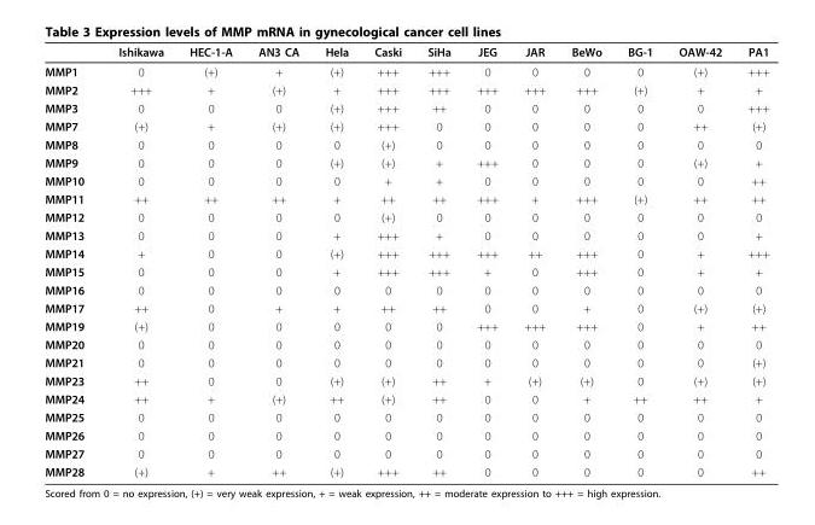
<table><thead><tr><td></td><td>Ishikawa</td><td>HEC-1-A</td><td>AN3 CA</td><td>Hela</td><td>Caski</td><td>SiHa</td><td>JEG</td><td>JAR</td><td>BeWo</td><td>BG-1</td><td>OAW-42</td><td>PA1</td></tr></thead><tbody><tr><td>MMP1</td><td>0</td><td>(+)</td><td>+</td><td>(+)</td><td>+++</td><td>+++</td><td>0</td><td>0</td><td>0</td><td>0</td><td>(+)</td><td>+++</td></tr><tr><td>MMP2</td><td>+++</td><td>+</td><td>(+)</td><td>+</td><td>+++</td><td>+++</td><td>+++</td><td>+++</td><td>+++</td><td>(+)</td><td>+</td><td>+</td></tr><tr><td>MMP3</td><td>0</td><td>0</td><td>0</td><td>(+)</td><td>+++</td><td>++</td><td>0</td><td>0</td><td>0</td><td>0</td><td>0</td><td>+++</td></tr><tr><td>MMP7</td><td>(+)</td><td>+</td><td>(+)</td><td>(+)</td><td>+++</td><td>0</td><td>0</td><td>0</td><td>0</td><td>0</td><td>++</td><td>(+)</td></tr><tr><td>MMP8</td><td>0</td><td>0</td><td>0</td><td>0</td><td>(+)</td><td>0</td><td>0</td><td>0</td><td>0</td><td>0</td><td>0</td><td>0</td></tr><tr><td>MMP9</td><td>0</td><td>0</td><td>0</td><td>(+)</td><td>(+)</td><td>+</td><td>+++</td><td>0</td><td>0</td><td>0</td><td>(+)</td><td>+</td></tr><tr><td>MMP10</td><td>0</td><td>0</td><td>0</td><td>0</td><td>+</td><td>+</td><td>0</td><td>0</td><td>0</td><td>0</td><td>0</td><td>++</td></tr><tr><td>MMP11</td><td>++</td><td>++</td><td>++</td><td>+</td><td>++</td><td>++</td><td>+++</td><td>+</td><td>+++</td><td>(+)</td><td>++</td><td>++</td></tr><tr><td>MMP12</td><td>0</td><td>0</td><td>0</td><td>0</td><td>(+)</td><td>0</td><td>0</td><td>0</td><td>0</td><td>0</td><td>0</td><td>0</td></tr><tr><td>MMP13</td><td>0</td><td>0</td><td>0</td><td>+</td><td>+++</td><td>+</td><td>0</td><td>0</td><td>0</td><td>0</td><td>0</td><td>+</td></tr><tr><td>MMP14</td><td>+</td><td>0</td><td>0</td><td>(+)</td><td>+++</td><td>+++</td><td>+++</td><td>++</td><td>+++</td><td>0</td><td>+</td><td>+++</td></tr><tr><td>MMP15</td><td>0</td><td>0</td><td>0</td><td>+</td><td>+++</td><td>+++</td><td>+</td><td>0</td><td>+++</td><td>0</td><td>+</td><td>+</td></tr><tr><td>MMP16</td><td>0</td><td>0</td><td>0</td><td>0</td><td>0</td><td>0</td><td>0</td><td>0</td><td>0</td><td>0</td><td>0</td><td>0</td></tr><tr><td>MMP17</td><td>++</td><td>0</td><td>+</td><td>+</td><td>++</td><td>++</td><td>0</td><td>0</td><td>+</td><td>0</td><td>(+)</td><td>(+)</td></tr><tr><td>MMP19</td><td>(+)</td><td>0</td><td>0</td><td>0</td><td>0</td><td>0</td><td>+++</td><td>+++</td><td>+++</td><td>0</td><td>+</td><td>++</td></tr><tr><td>MMP20</td><td>0</td><td>0</td><td>0</td><td>0</td><td>0</td><td>0</td><td>0</td><td>0</td><td>0</td><td>0</td><td>0</td><td>0</td></tr><tr><td>MMP21</td><td>0</td><td>0</td><td>0</td><td>0</td><td>0</td><td>0</td><td>0</td><td>0</td><td>0</td><td>0</td><td>0</td><td>(+)</td></tr><tr><td>MMP23</td><td>++</td><td>0</td><td>0</td><td>(+)</td><td>(+)</td><td>++</td><td>+</td><td>(+)</td><td>(+)</td><td>0</td><td>(+)</td><td>(+)</td></tr><tr><td>MMP24</td><td>++</td><td>+</td><td>(+)</td><td>++</td><td>(+)</td><td>++</td><td>0</td><td>0</td><td>+</td><td>++</td><td>++</td><td>+</td></tr><tr><td>MMP25</td><td>0</td><td>0</td><td>0</td><td>0</td><td>0</td><td>0</td><td>0</td><td>0</td><td>0</td><td>0</td><td>0</td><td>0</td></tr><tr><td>MMP26</td><td>0</td><td>0</td><td>0</td><td>0</td><td>0</td><td>0</td><td>0</td><td>0</td><td>0</td><td>0</td><td>0</td><td>0</td></tr><tr><td>MMP27</td><td>0</td><td>0</td><td>0</td><td>0</td><td>0</td><td>0</td><td>0</td><td>0</td><td>0</td><td>0</td><td>0</td><td>0</td></tr><tr><td>MMP28</td><td>(+)</td><td>+</td><td>++</td><td>(+)</td><td>+++</td><td>++</td><td>0</td><td>0</td><td>0</td><td>0</td><td>0</td><td>++</td></tr></tbody></table>